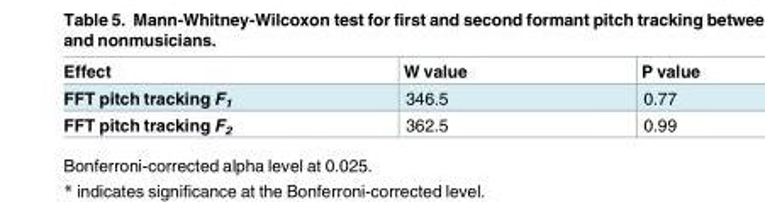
<table><thead><tr><td>Effect</td><td>W value</td><td>P value</td></tr></thead><tbody><tr><td>FFT pitch tracking F<sub>1</sub></td><td>346.5</td><td>0.77</td></tr><tr><td>FFT pitch tracking F<sub>2</sub></td><td>362.5</td><td>0.99</td></tr></tbody></table>